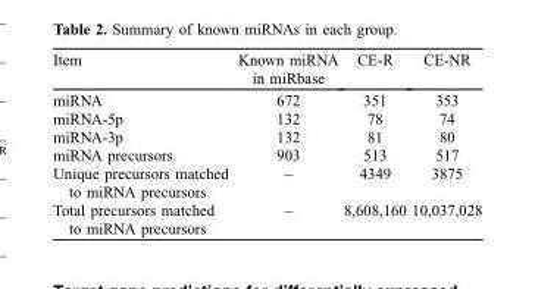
<table><thead><tr><td>Item</td><td>Known miRNA in miRbase</td><td>CE-R</td><td>CE-NR</td></tr></thead><tbody><tr><td>miRNA</td><td>672</td><td>351</td><td>353</td></tr><tr><td>miRNA-5p</td><td>132</td><td>78</td><td>74</td></tr><tr><td>miRNA-3p</td><td>132</td><td>81</td><td>80</td></tr><tr><td>miRNA precursors</td><td>903</td><td>513</td><td>517</td></tr><tr><td>Unique precursors matched to miRNA precursors</td><td>−</td><td>4349</td><td>3875</td></tr><tr><td>Total precursors matched to miRNA precursors</td><td>−</td><td>8,608,160</td><td>10,037,028</td></tr></tbody></table>